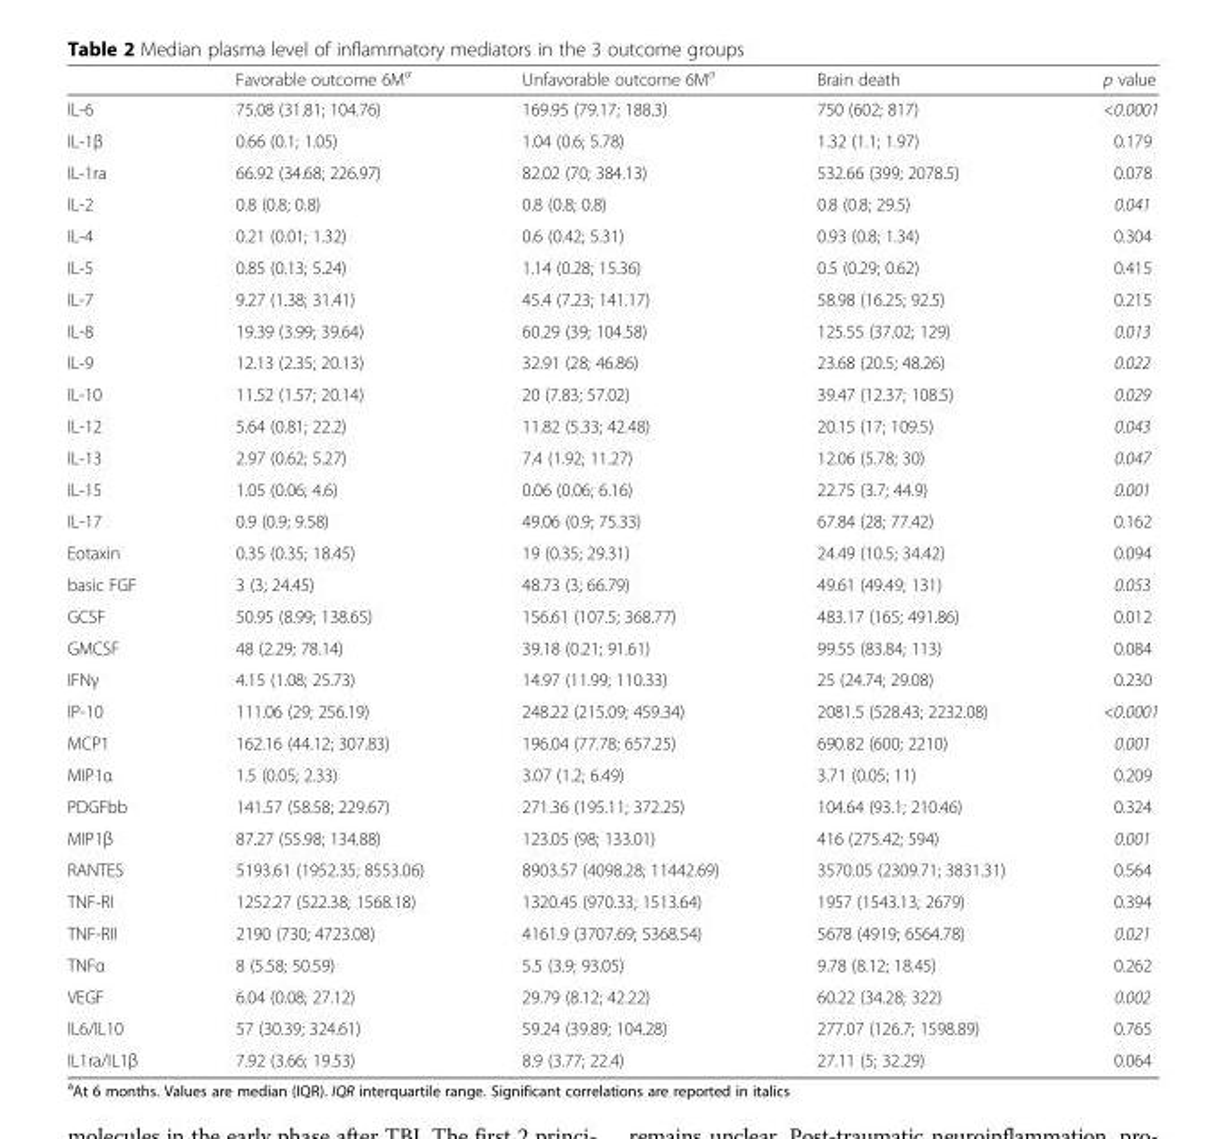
<table><thead><tr><td></td><td>Favorable outcome 6M<sup>a</sup></td><td>Unfavorable outcome 6M<sup>a</sup></td><td>Brain death</td><td>p value</td></tr></thead><tbody><tr><td>IL-6</td><td>75.08 (31.81; 104.76)</td><td>169.95 (79.17; 188.3)</td><td>750 (602; 817)</td><td>&lt;0.0001</td></tr><tr><td>IL-1β</td><td>0.66 (0.1; 1.05)</td><td>1.04 (0.6; 5.78)</td><td>1.32 (1.1; 1.97)</td><td>0.179</td></tr><tr><td>IL-1ra</td><td>66.92 (34.68; 226.97)</td><td>82.02 (70; 384.13)</td><td>532.66 (399; 2078.5)</td><td>0.078</td></tr><tr><td>IL-2</td><td>0.8 (0.8; 0.8)</td><td>0.8 (0.8; 0.8)</td><td>0.8 (0.8; 29.5)</td><td>0.041</td></tr><tr><td>IL-4</td><td>0.21 (0.01; 1.32)</td><td>0.6 (0.42; 5.31)</td><td>0.93 (0.8; 1.34)</td><td>0.304</td></tr><tr><td>IL-5</td><td>0.85 (0.13; 5.24)</td><td>1.14 (0.28; 15.36)</td><td>0.5 (0.29; 0.62)</td><td>0.415</td></tr><tr><td>IL-7</td><td>9.27 (1.38; 31.41)</td><td>45.4 (7.23; 141.17)</td><td>58.98 (16.25; 92.5)</td><td>0.215</td></tr><tr><td>IL-8</td><td>19.39 (3.99; 39.64)</td><td>60.29 (39; 104.58)</td><td>125.55 (37.02; 129)</td><td>0.013</td></tr><tr><td>IL-9</td><td>12.13 (2.35; 20.13)</td><td>32.91 (28; 46.86)</td><td>23.68 (20.5; 48.26)</td><td>0.022</td></tr><tr><td>IL-10</td><td>11.52 (1.57; 20.14)</td><td>20 (7.83; 57.02)</td><td>39.47 (12.37; 108.5)</td><td>0.029</td></tr><tr><td>IL-12</td><td>5.64 (0.81; 22.2)</td><td>11.82 (5.33; 42.48)</td><td>20.15 (17; 109.5)</td><td>0.043</td></tr><tr><td>IL-13</td><td>2.97 (0.62; 5.27)</td><td>7.4 (1.92; 11.27)</td><td>12.06 (5.78; 30)</td><td>0.047</td></tr><tr><td>IL-15</td><td>1.05 (0.06; 4.6)</td><td>0.06 (0.06; 6.16)</td><td>22.75 (3.7; 44.9)</td><td>0.001</td></tr><tr><td>IL-17</td><td>0.9 (0.9; 9.58)</td><td>49.06 (0.9; 75.33)</td><td>67.84 (28; 77.42)</td><td>0.162</td></tr><tr><td>Eotaxin</td><td>0.35 (0.35; 18.45)</td><td>19 (0.35; 29.31)</td><td>24.49 (10.5; 34.42)</td><td>0.094</td></tr><tr><td>basic FGF</td><td>3 (3; 24.45)</td><td>48.73 (3; 66.79)</td><td>49.61 (49.49; 131)</td><td>0.053</td></tr><tr><td>GCSF</td><td>50.95 (8.99; 138.65)</td><td>156.61 (107.5; 368.77)</td><td>483.17 (165; 491.86)</td><td>0.012</td></tr><tr><td>GMCSF</td><td>48 (2.29; 78.14)</td><td>39.18 (0.21; 91.61)</td><td>99.55 (83.84; 113)</td><td>0.084</td></tr><tr><td>IFNγ</td><td>4.15 (1.08; 25.73)</td><td>14.97 (11.99; 110.33)</td><td>25 (24.74; 29.08)</td><td>0.230</td></tr><tr><td>IP-10</td><td>111.06 (29; 256.19)</td><td>248.22 (215.09; 459.34)</td><td>2081.5 (528.43; 2232.08)</td><td>&lt;0.0001</td></tr><tr><td>MCP1</td><td>162.16 (44.12; 307.83)</td><td>196.04 (77.78; 657.25)</td><td>690.82 (600; 2210)</td><td>0.001</td></tr><tr><td>MIP1α</td><td>1.5 (0.05; 2.33)</td><td>3.07 (1.2; 6.49)</td><td>3.71 (0.05; 11)</td><td>0.209</td></tr><tr><td>PDGFbb</td><td>141.57 (58.58; 229.67)</td><td>271.36 (195.11; 372.25)</td><td>104.64 (93.1; 210.46)</td><td>0.324</td></tr><tr><td>MIP1β</td><td>87.27 (55.98; 134.88)</td><td>123.05 (98; 133.01)</td><td>416 (275.42; 594)</td><td>0.001</td></tr><tr><td>RANTES</td><td>5193.61 (1952.35; 8553.06)</td><td>8903.57 (4098.28; 11442.69)</td><td>3570.05 (2309.71; 3831.31)</td><td>0.564</td></tr><tr><td>TNF-RI</td><td>1252.27 (522.38; 1568.18)</td><td>1320.45 (970.33; 1513.64)</td><td>1957 (1543.13; 2679)</td><td>0.394</td></tr><tr><td>TNF-RII</td><td>2190 (730; 4723.08)</td><td>4161.9 (3707.69; 5368.54)</td><td>5678 (4919; 6564.78)</td><td>0.021</td></tr><tr><td>TNFα</td><td>8 (5.58; 50.59)</td><td>5.5 (3.9; 93.05)</td><td>9.78 (8.12; 18.45)</td><td>0.262</td></tr><tr><td>VEGF</td><td>6.04 (0.08; 27.12)</td><td>29.79 (8.12; 42.22)</td><td>60.22 (34.28; 322)</td><td>0.002</td></tr><tr><td>IL6/IL10</td><td>57 (30.39; 324.61)</td><td>59.24 (39.89; 104.28)</td><td>277.07 (126.7; 1598.89)</td><td>0.765</td></tr><tr><td>IL1ra/IL1β</td><td>7.92 (3.66; 19.53)</td><td>8.9 (3.77; 22.4)</td><td>27.11 (5; 32.29)</td><td>0.064</td></tr></tbody></table>